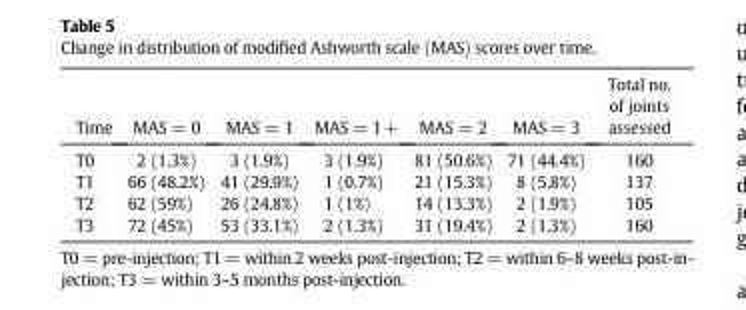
<table><thead><tr><td>Time</td><td>MAS = 0</td><td>MAS = 1</td><td>MAS = 1+</td><td>MAS = 2</td><td>MAS = 3</td><td>Total no. of joints assessed</td></tr></thead><tbody><tr><td>T0</td><td>2 (1.3%)</td><td>3 (1.9%)</td><td>3 (1.9%)</td><td>81 (50.6%)</td><td>71 (44.4%)</td><td>160</td></tr><tr><td>T1</td><td>66 (48.2%)</td><td>41 (29.9%)</td><td>1 (0.7%)</td><td>21 (15.3%)</td><td>8 (5.8%)</td><td>137</td></tr><tr><td>T2</td><td>62 (59%)</td><td>26 (24.8%)</td><td>1 (1%)</td><td>14 (13.3%)</td><td>2 (1.9%)</td><td>105</td></tr><tr><td>T3</td><td>72 (45%)</td><td>53 (33.1%)</td><td>2 (1.3%)</td><td>31 (19.4%)</td><td>2 (1.3%)</td><td>160</td></tr></tbody></table>